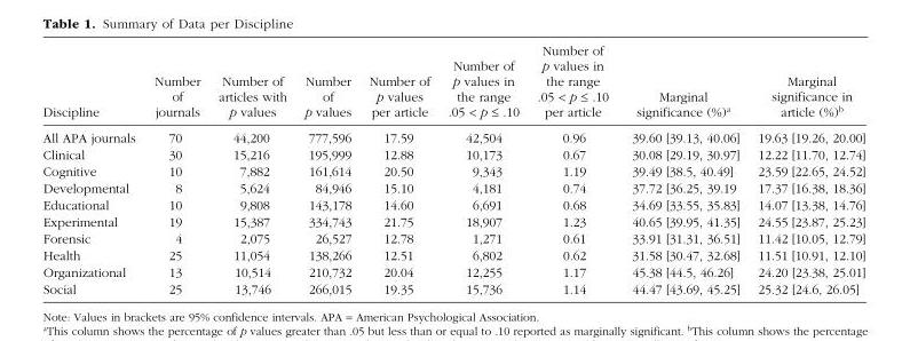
<table><thead><tr><td>Discipline</td><td>Number of journals</td><td>Number of articles with p values</td><td>Number of p values</td><td>Number of p values per article</td><td>Number of p values in the range .05 &lt; p ≤ .10</td><td>Number of p values in the range .05 &lt; p ≤ .10 per article</td><td>Marginal significance (%)<sup>a</sup></td><td>Marginal significance in article (%)<sup>b</sup></td></tr></thead><tbody><tr><td>All APA journals</td><td>70</td><td>44,200</td><td>777,596</td><td>17.59</td><td>42,504</td><td>0.96</td><td>39.60 [39.13, 40.06]</td><td>19.63 [19.26, 20.00]</td></tr><tr><td>Clinical</td><td>30</td><td>15,216</td><td>195,999</td><td>12.88</td><td>10,173</td><td>0.67</td><td>30.08 [29.19, 30.97]</td><td>12.22 [11.70, 12.74]</td></tr><tr><td>Cognitive</td><td>10</td><td>7,882</td><td>161,614</td><td>20.50</td><td>9,343</td><td>1.19</td><td>39.49 [38.5, 40.49]</td><td>23.59 [22.65, 24.52]</td></tr><tr><td>Developmental</td><td>8</td><td>5,624</td><td>84,946</td><td>15.10</td><td>4,181</td><td>0.74</td><td>37.72 [36.25, 39.19</td><td>17.37 [16.38, 18.36]</td></tr><tr><td>Educational</td><td>10</td><td>9,808</td><td>143,178</td><td>14.60</td><td>6,691</td><td>0.68</td><td>34.69 [33.55, 35.83]</td><td>14.07 [13.38, 14.76]</td></tr><tr><td>Experimental</td><td>19</td><td>15,387</td><td>334,743</td><td>21.75</td><td>18,907</td><td>1.23</td><td>40.65 [39.95, 41.35]</td><td>24.55 [23.87, 25.23]</td></tr><tr><td>Forensic</td><td>4</td><td>2,075</td><td>26,527</td><td>12.78</td><td>1,271</td><td>0.61</td><td>33.91 [31.31, 36.51]</td><td>11.42 [10.05, 12.79]</td></tr><tr><td>Health</td><td>25</td><td>11,054</td><td>138,266</td><td>12.51</td><td>6,802</td><td>0.62</td><td>31.58 [30.47, 32.68]</td><td>11.51 [10.91, 12.10]</td></tr><tr><td>Organizational</td><td>13</td><td>10,514</td><td>210,732</td><td>20.04</td><td>12,255</td><td>1.17</td><td>45.38 [44.5, 46.26]</td><td>24.20 [23.38, 25.01]</td></tr><tr><td>Social</td><td>25</td><td>13,746</td><td>266,015</td><td>19.35</td><td>15,736</td><td>1.14</td><td>44.47 [43.69, 45.25]</td><td>25.32 [24.6, 26.05]</td></tr></tbody></table>